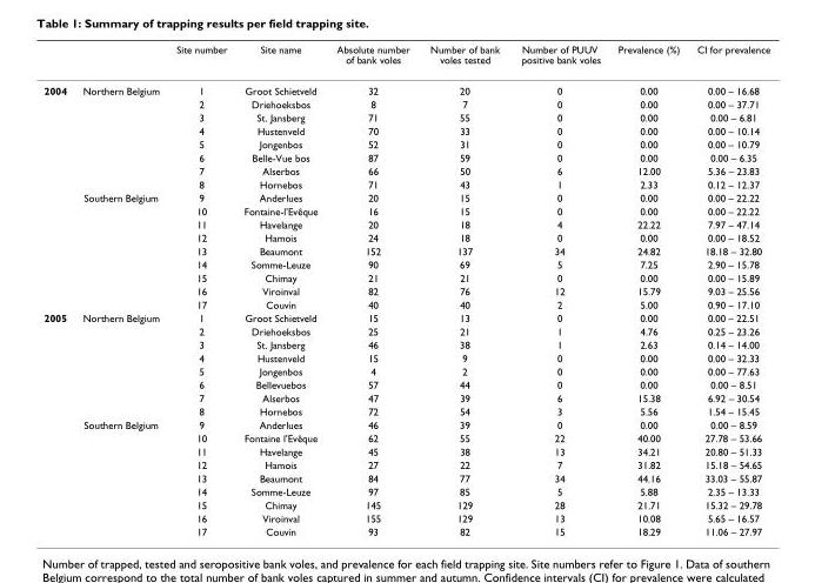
<table><thead><tr><td></td><td></td><td>Site number</td><td>Site name</td><td>Absolute number of bank voles</td><td>Number of bank voles tested</td><td>Number of PUUV positive bank voles</td><td>Prevalence (%)</td><td>CI for prevalence</td></tr></thead><tbody><tr><td rowspan="17">2004</td><td>Northern Belgium</td><td>1</td><td>Groot Schietveld</td><td>32</td><td>20</td><td>0</td><td>0.00</td><td>0.00 – 16.68</td></tr><tr><td></td><td>2</td><td>Driehoeksbos</td><td>8</td><td>7</td><td>0</td><td>0.00</td><td>0.00 – 37.71</td></tr><tr><td></td><td>3</td><td>St. Jansberg</td><td>71</td><td>55</td><td>0</td><td>0.00</td><td>0.00 – 6.81</td></tr><tr><td></td><td>4</td><td>Hustenveld</td><td>70</td><td>33</td><td>0</td><td>0.00</td><td>0.00 – 10.14</td></tr><tr><td></td><td>5</td><td>Jongenbos</td><td>52</td><td>31</td><td>0</td><td>0.00</td><td>0.00 – 10.79</td></tr><tr><td></td><td>6</td><td>Belle-Vue bos</td><td>87</td><td>59</td><td>0</td><td>0.00</td><td>0.00 – 6.35</td></tr><tr><td></td><td>7</td><td>Alserbos</td><td>66</td><td>50</td><td>6</td><td>12.00</td><td>5.36 – 23.83</td></tr><tr><td></td><td>8</td><td>Hornebos</td><td>71</td><td>43</td><td>1</td><td>2.33</td><td>0.12 – 12.37</td></tr><tr><td>Southern Belgium</td><td>9</td><td>Anderlues</td><td>20</td><td>15</td><td>0</td><td>0.00</td><td>0.00 – 22.22</td></tr><tr><td></td><td>10</td><td>Fontaine-l&#x27;Evêque</td><td>16</td><td>15</td><td>0</td><td>0.00</td><td>0.00 – 22.22</td></tr><tr><td></td><td>11</td><td>Havelange</td><td>20</td><td>18</td><td>4</td><td>22.22</td><td>7.97 – 47.14</td></tr><tr><td></td><td>12</td><td>Hamois</td><td>24</td><td>18</td><td>0</td><td>0.00</td><td>0.00 – 18.52</td></tr><tr><td></td><td>13</td><td>Beaumont</td><td>152</td><td>137</td><td>34</td><td>24.82</td><td>18.18 – 32.80</td></tr><tr><td></td><td>14</td><td>Somme-Leuze</td><td>90</td><td>69</td><td>5</td><td>7.25</td><td>2.90 – 15.78</td></tr><tr><td></td><td>15</td><td>Chimay</td><td>21</td><td>21</td><td>0</td><td>0.00</td><td>0.00 – 15.89</td></tr><tr><td></td><td>16</td><td>Viroinval</td><td>82</td><td>76</td><td>12</td><td>15.79</td><td>9.03 – 25.56</td></tr><tr><td></td><td>17</td><td>Couvin</td><td>40</td><td>40</td><td>2</td><td>5.00</td><td>0.90 – 17.10</td></tr><tr><td rowspan="17">2005</td><td>Northern Belgium</td><td>1</td><td>Groot Schietveld</td><td>15</td><td>13</td><td>0</td><td>0.00</td><td>0.00 – 22.51</td></tr><tr><td></td><td>2</td><td>Driehoeksbos</td><td>25</td><td>21</td><td>1</td><td>4.76</td><td>0.25 – 23.26</td></tr><tr><td></td><td>3</td><td>St. Jansberg</td><td>46</td><td>38</td><td>1</td><td>2.63</td><td>0.14 – 14.00</td></tr><tr><td></td><td>4</td><td>Hustenveld</td><td>15</td><td>9</td><td>0</td><td>0.00</td><td>0.00 – 32.33</td></tr><tr><td></td><td>5</td><td>Jongenbos</td><td>4</td><td>2</td><td>0</td><td>0.00</td><td>0.00 – 77.63</td></tr><tr><td></td><td>6</td><td>Bellevuebos</td><td>57</td><td>44</td><td>0</td><td>0.00</td><td>0.00 – 8.51</td></tr><tr><td></td><td>7</td><td>Alserbos</td><td>47</td><td>39</td><td>6</td><td>15.38</td><td>6.92 – 30.54</td></tr><tr><td></td><td>8</td><td>Hornebos</td><td>72</td><td>54</td><td>3</td><td>5.56</td><td>1.54 – 15.45</td></tr><tr><td>Southern Belgium</td><td>9</td><td>Anderlues</td><td>46</td><td>39</td><td>0</td><td>0.00</td><td>0.00 – 8.59</td></tr><tr><td></td><td>10</td><td>Fontaine l&#x27;Evêque</td><td>62</td><td>55</td><td>22</td><td>40.00</td><td>27.78 – 53.66</td></tr><tr><td></td><td>11</td><td>Havelange</td><td>45</td><td>38</td><td>13</td><td>34.21</td><td>20.80 – 51.33</td></tr><tr><td></td><td>12</td><td>Hamois</td><td>27</td><td>22</td><td>7</td><td>31.82</td><td>15.18 – 54.65</td></tr><tr><td></td><td>13</td><td>Beaumont</td><td>84</td><td>77</td><td>34</td><td>44.16</td><td>33.03 – 55.87</td></tr><tr><td></td><td>14</td><td>Somme-Leuze</td><td>97</td><td>85</td><td>5</td><td>5.88</td><td>2.35 – 13.33</td></tr><tr><td></td><td>15</td><td>Chimay</td><td>145</td><td>129</td><td>28</td><td>21.71</td><td>15.32 – 29.78</td></tr><tr><td></td><td>16</td><td>Viroinval</td><td>155</td><td>129</td><td>13</td><td>10.08</td><td>5.65 – 16.57</td></tr><tr><td></td><td>17</td><td>Couvin</td><td>93</td><td>82</td><td>15</td><td>18.29</td><td>11.06 – 27.97</td></tr></tbody></table>